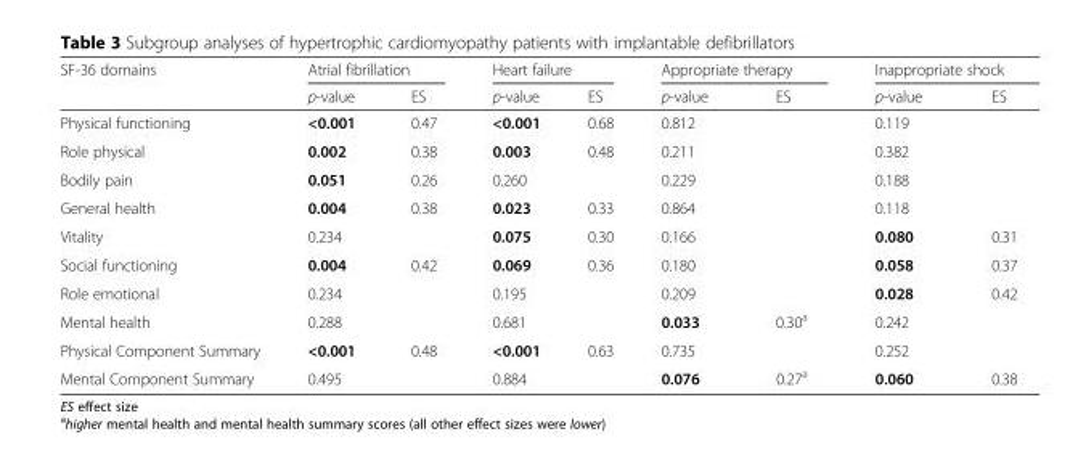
<table><thead><tr><td rowspan="2">SF-36 domains</td><td colspan="2">Atrial fibrillation</td><td colspan="2">Heart failure</td><td colspan="2">Appropriate therapy</td><td colspan="2">Inappropriate shock</td></tr><tr><td>p-value</td><td>ES</td><td>p-value</td><td>ES</td><td>p-value</td><td>ES</td><td>p-value</td><td>ES</td></tr></thead><tbody><tr><td>Physical functioning</td><td>&lt;0.001</td><td>0.47</td><td>&lt;0.001</td><td>0.68</td><td>0.812</td><td></td><td>0.119</td><td></td></tr><tr><td>Role physical</td><td>0.002</td><td>0.38</td><td>0.003</td><td>0.48</td><td>0.211</td><td></td><td>0.382</td><td></td></tr><tr><td>Bodily pain</td><td>0.051</td><td>0.26</td><td>0.260</td><td></td><td>0.229</td><td></td><td>0.188</td><td></td></tr><tr><td>General health</td><td>0.004</td><td>0.38</td><td>0.023</td><td>0.33</td><td>0.864</td><td></td><td>0.118</td><td></td></tr><tr><td>Vitality</td><td>0.234</td><td></td><td>0.075</td><td>0.30</td><td>0.166</td><td></td><td>0.080</td><td>0.31</td></tr><tr><td>Social functioning</td><td>0.004</td><td>0.42</td><td>0.069</td><td>0.36</td><td>0.180</td><td></td><td>0.058</td><td>0.37</td></tr><tr><td>Role emotional</td><td>0.234</td><td></td><td>0.195</td><td></td><td>0.209</td><td></td><td>0.028</td><td>0.42</td></tr><tr><td>Mental health</td><td>0.288</td><td></td><td>0.681</td><td></td><td>0.033</td><td>0.30<sup>a</sup></td><td>0.242</td><td></td></tr><tr><td>Physical Component Summary</td><td>&lt;0.001</td><td>0.48</td><td>&lt;0.001</td><td>0.63</td><td>0.735</td><td></td><td>0.252</td><td></td></tr><tr><td>Mental Component Summary</td><td>0.495</td><td></td><td>0.884</td><td></td><td>0.076</td><td>0.27<sup>a</sup></td><td>0.060</td><td>0.38</td></tr></tbody></table>